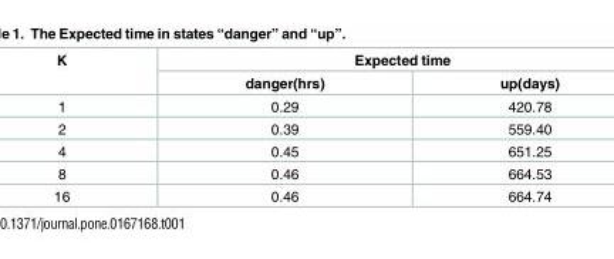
<table><thead><tr><td rowspan="2">K</td><td colspan="2">Expected time</td></tr><tr><td>danger(hrs)</td><td>up(days)</td></tr></thead><tbody><tr><td>1</td><td>0.29</td><td>420.78</td></tr><tr><td>2</td><td>0.39</td><td>559.40</td></tr><tr><td>4</td><td>0.45</td><td>651.25</td></tr><tr><td>8</td><td>0.46</td><td>664.53</td></tr><tr><td>16</td><td>0.46</td><td>664.74</td></tr></tbody></table>